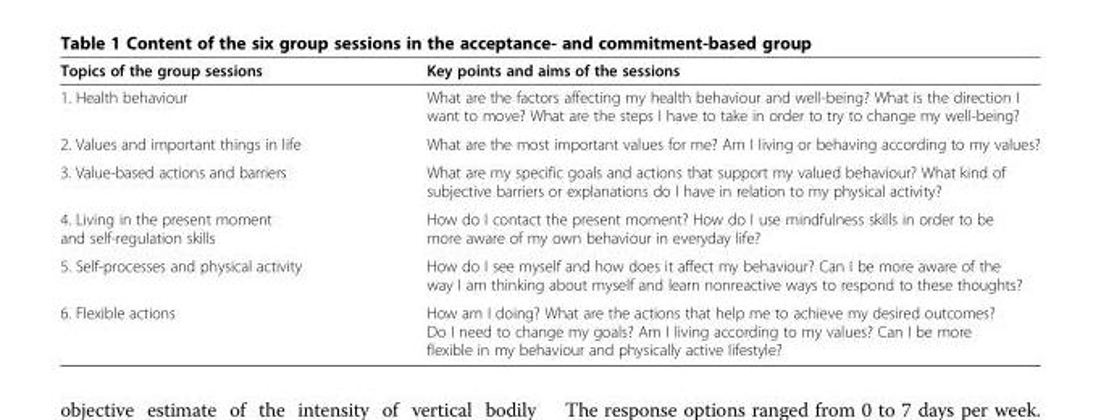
<table><thead><tr><td>Topics of the group sessions</td><td>Key points and aims of the sessions</td></tr></thead><tbody><tr><td>1. Health behaviour</td><td>What are the factors affecting my health behaviour and well-being? What is the direction I want to move? What are the steps I have to take in order to try to change my well-being?</td></tr><tr><td>2. Values and important things in life</td><td>What are the most important values for me? Am I living or behaving according to my values?</td></tr><tr><td>3. Value-based actions and barriers</td><td>What are my specific goals and actions that support my valued behaviour? What kind of subjective barriers or explanations do I have in relation to my physical activity?</td></tr><tr><td>4. Living in the present moment and self-regulation skills</td><td>How do I contact the present moment? How do I use mindfulness skills in order to be more aware of my own behaviour in everyday life?</td></tr><tr><td>5. Self-processes and physical activity</td><td>How do I see myself and how does it affect my behaviour? Can I be more aware of the way I am thinking about myself and learn nonreactive ways to respond to these thoughts?</td></tr><tr><td>6. Flexible actions</td><td>How am I doing? What are the actions that help me to achieve my desired outcomes? Do I need to change my goals? Am I living according to my values? Can I be more flexible in my behaviour and physically active lifestyle?</td></tr></tbody></table>